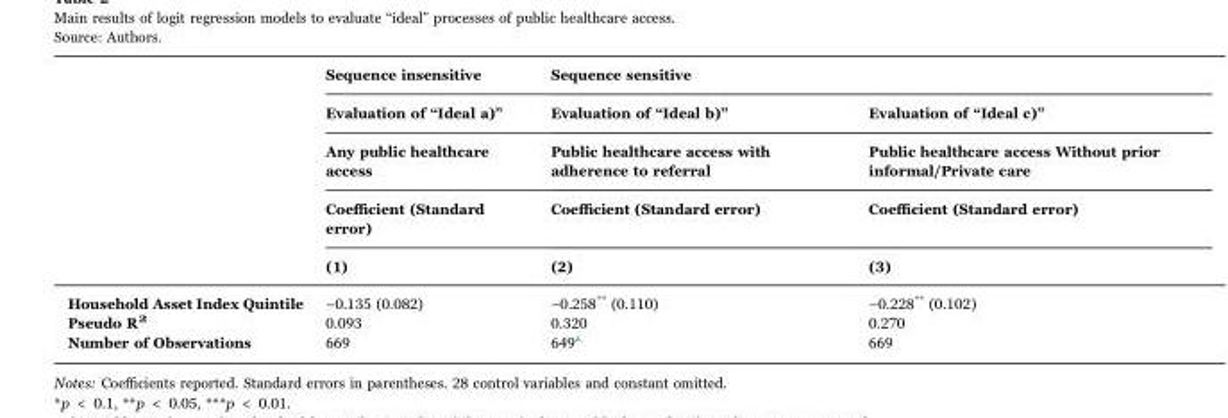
<table><thead><tr><td rowspan="5"></td><td rowspan="5">Sequence insensitive Evaluation of “Ideal a)” Any public healthcare access Coefficient (Standard error) (1)</td><td colspan="2">Sequence sensitive</td></tr><tr><td rowspan="4">Evaluation of “Ideal b)” Public healthcare access with adherence to referral Coefficient (Standard error) (2)</td><td rowspan="4">Evaluation of “Ideal c)” Public healthcare access Without prior informal/Private care Coefficient (Standard error) (3)</td></tr><tr></tr><tr></tr><tr></tr></thead><tbody><tr><td>Household Asset Index Quintile</td><td>−0.135 (0.082)</td><td>−0.258** (0.110)</td><td>−0.228** (0.102)</td></tr><tr><td>Pseudo R<sup>2</sup></td><td>0.093</td><td>0.320</td><td>0.270</td></tr><tr><td>Number of Observations</td><td>669</td><td>649<sup>a</sup></td><td>669</td></tr></tbody></table>